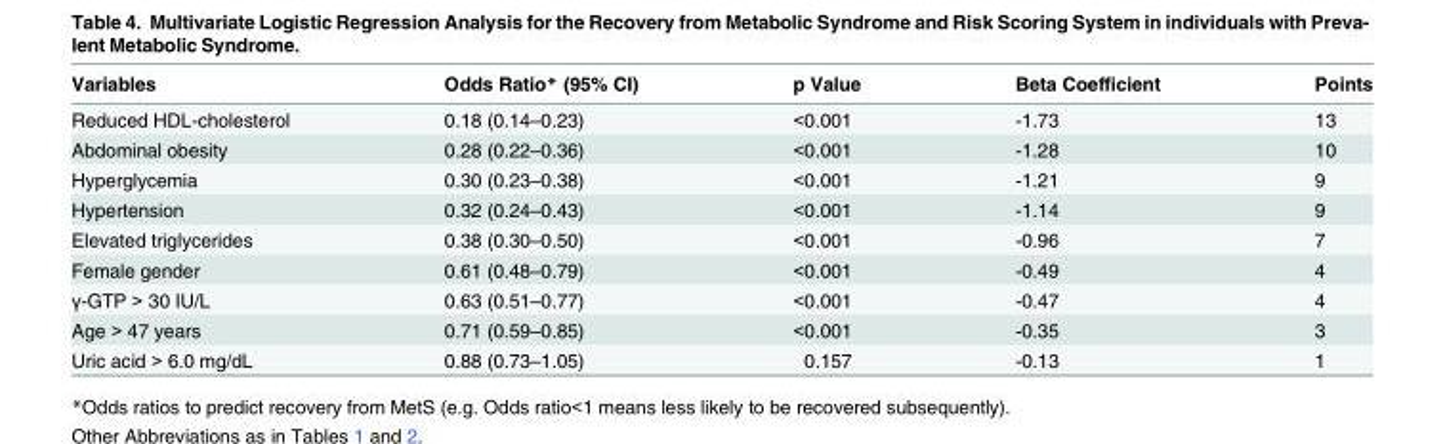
<table><thead><tr><td>Variables</td><td>Odds Ratio* (95% CI)</td><td>p Value</td><td>Beta Coefficient</td><td>Points</td></tr></thead><tbody><tr><td>Reduced HDL-cholesterol</td><td>0.18 (0.14–0.23)</td><td>&lt;0.001</td><td>-1.73</td><td>13</td></tr><tr><td>Abdominal obesity</td><td>0.28 (0.22–0.36)</td><td>&lt;0.001</td><td>-1.28</td><td>10</td></tr><tr><td>Hyperglycemia</td><td>0.30 (0.23–0.38)</td><td>&lt;0.001</td><td>-1.21</td><td>9</td></tr><tr><td>Hypertension</td><td>0.32 (0.24–0.43)</td><td>&lt;0.001</td><td>-1.14</td><td>9</td></tr><tr><td>Elevated triglycerides</td><td>0.38 (0.30–0.50)</td><td>&lt;0.001</td><td>-0.96</td><td>7</td></tr><tr><td>Female gender</td><td>0.61 (0.48–0.79)</td><td>&lt;0.001</td><td>-0.49</td><td>4</td></tr><tr><td>γ-GTP &gt; 30 IU/L</td><td>0.63 (0.51–0.77)</td><td>&lt;0.001</td><td>-0.47</td><td>4</td></tr><tr><td>Age &gt; 47 years</td><td>0.71 (0.59–0.85)</td><td>&lt;0.001</td><td>-0.35</td><td>3</td></tr><tr><td>Uric acid &gt; 6.0 mg/dL</td><td>0.88 (0.73–1.05)</td><td>0.157</td><td>-0.13</td><td>1</td></tr></tbody></table>